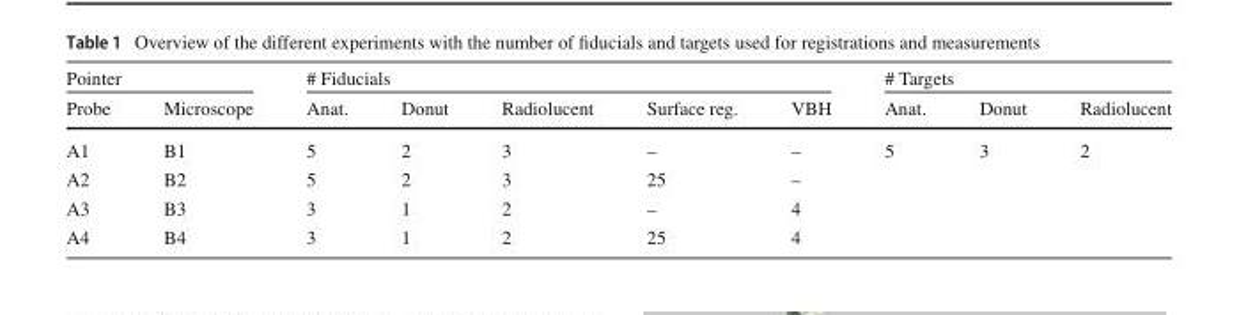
<table><thead><tr><td colspan="2">Pointer</td><td colspan="5"># Fiducials</td><td colspan="3"># Targets</td></tr><tr><td>Probe</td><td>Microscope</td><td>Anat.</td><td>Donut</td><td>Radiolucent</td><td>Surface reg.</td><td>VBH</td><td>Anat.</td><td>Donut</td><td>Radiolucent</td></tr></thead><tbody><tr><td>A1</td><td>B1</td><td>5</td><td>2</td><td>3</td><td>–</td><td>–</td><td rowspan="4">5</td><td rowspan="4">3</td><td rowspan="4">2</td></tr><tr><td>A2</td><td>B2</td><td>5</td><td>2</td><td>3</td><td>25</td><td>–</td></tr><tr><td>A3</td><td>B3</td><td>3</td><td>1</td><td>2</td><td>–</td><td>4</td></tr><tr><td>A4</td><td>B4</td><td>3</td><td>1</td><td>2</td><td>25</td><td>4</td></tr></tbody></table>